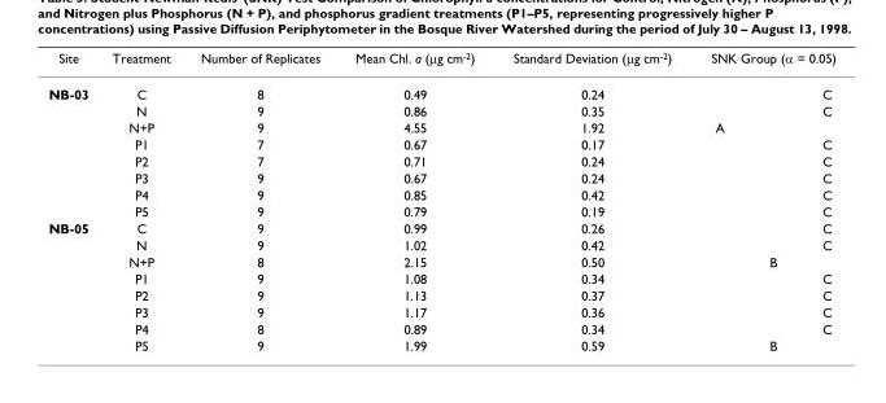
<table><thead><tr><td rowspan="2">Site NB-03</td><td rowspan="2">Treatment C</td><td rowspan="2">Number of Replicates 8</td><td rowspan="2">Mean Chl. a (μg cm<sup>-2</sup>) 0.49</td><td rowspan="2">Standard Deviation (μg cm<sup>-2</sup>) 0.24</td><td colspan="3">SNK Group (α = 0.05)</td></tr><tr><td></td><td></td><td>C</td></tr></thead><tbody><tr><td></td><td>N</td><td>9</td><td>0.86</td><td>0.35</td><td></td><td></td><td>C</td></tr><tr><td></td><td>N+P</td><td>9</td><td>4.55</td><td>1.92</td><td>A</td><td></td><td></td></tr><tr><td></td><td>P1</td><td>7</td><td>0.67</td><td>0.17</td><td></td><td></td><td>C</td></tr><tr><td></td><td>P2</td><td>7</td><td>0.71</td><td>0.24</td><td></td><td></td><td>C</td></tr><tr><td></td><td>P3</td><td>9</td><td>0.67</td><td>0.24</td><td></td><td></td><td>C</td></tr><tr><td></td><td>P4</td><td>9</td><td>0.85</td><td>0.42</td><td></td><td></td><td>C</td></tr><tr><td></td><td>P5</td><td>9</td><td>0.79</td><td>0.19</td><td></td><td></td><td>C</td></tr><tr><td rowspan="8">NB-05</td><td>C</td><td>9</td><td>0.99</td><td>0.26</td><td></td><td></td><td>C</td></tr><tr><td>N</td><td>9</td><td>1.02</td><td>0.42</td><td></td><td></td><td>C</td></tr><tr><td>N+P</td><td>8</td><td>2.15</td><td>0.50</td><td></td><td>B</td><td></td></tr><tr><td>P1</td><td>9</td><td>1.08</td><td>0.34</td><td></td><td></td><td>C</td></tr><tr><td>P2</td><td>9</td><td>1.13</td><td>0.37</td><td></td><td></td><td>C</td></tr><tr><td>P3</td><td>9</td><td>1.17</td><td>0.36</td><td></td><td></td><td>C</td></tr><tr><td>P4</td><td>8</td><td>0.89</td><td>0.34</td><td></td><td></td><td>C</td></tr><tr><td>P5</td><td>9</td><td>1.99</td><td>0.59</td><td></td><td>B</td><td></td></tr></tbody></table>